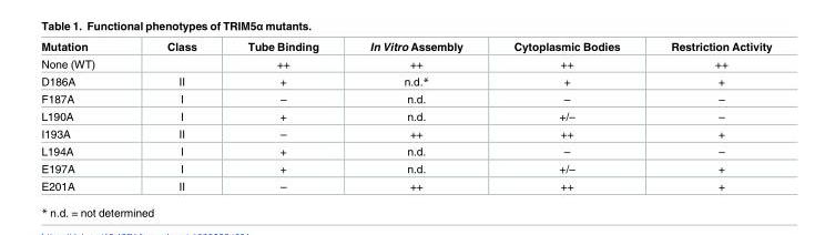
<table><thead><tr><td>Mutation</td><td>Class</td><td>Tube Binding</td><td>In Vitro Assembly</td><td>Cytoplasmic Bodies</td><td>Restriction Activity</td></tr></thead><tbody><tr><td>None (WT)</td><td></td><td>++</td><td>++</td><td>++</td><td>++</td></tr><tr><td>D186A</td><td>II</td><td>+</td><td>n.d.*</td><td>+</td><td>+</td></tr><tr><td>F187A</td><td>I</td><td>–</td><td>n.d.</td><td>–</td><td>–</td></tr><tr><td>L190A</td><td>I</td><td>+</td><td>n.d.</td><td>+/–</td><td>–</td></tr><tr><td>I193A</td><td>II</td><td>–</td><td>++</td><td>++</td><td>+</td></tr><tr><td>L194A</td><td>I</td><td>+</td><td>n.d.</td><td>–</td><td>–</td></tr><tr><td>E197A</td><td>I</td><td>+</td><td>n.d.</td><td>+/–</td><td>+</td></tr><tr><td>E201A</td><td>II</td><td>–</td><td>++</td><td>++</td><td>+</td></tr></tbody></table>